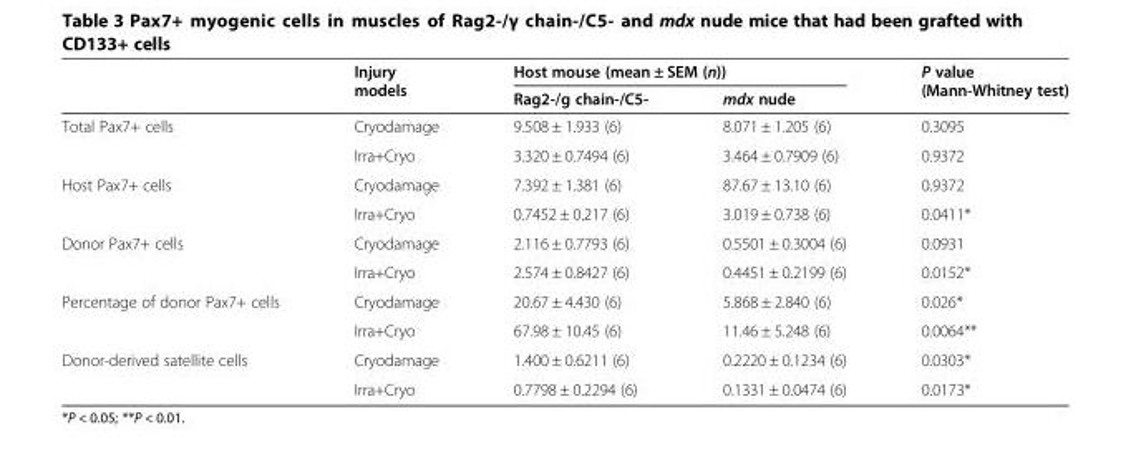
<table><thead><tr><td rowspan="2"></td><td rowspan="2">Injury models</td><td colspan="2">Host mouse (mean ± SEM (n))</td><td rowspan="2">P value (Mann-Whitney test)</td></tr><tr><td>Rag2-/g chain-/C5-</td><td>mdx nude</td></tr></thead><tbody><tr><td rowspan="2">Total Pax7+ cells</td><td>Cryodamage</td><td>9.508 ± 1.933 (6)</td><td>8.071 ± 1.205 (6)</td><td>0.3095</td></tr><tr><td>Irra+Cryo</td><td>3.320 ± 0.7494 (6)</td><td>3.464 ± 0.7909 (6)</td><td>0.9372</td></tr><tr><td rowspan="2">Host Pax7+ cells</td><td>Cryodamage</td><td>7.392 ± 1.381 (6)</td><td>87.67 ± 13.10 (6)</td><td>0.9372</td></tr><tr><td>Irra+Cryo</td><td>0.7452 ± 0.217 (6)</td><td>3.019 ± 0.738 (6)</td><td>0.0411*</td></tr><tr><td rowspan="2">Donor Pax7+ cells</td><td>Cryodamage</td><td>2.116 ± 0.7793 (6)</td><td>0.5501 ± 0.3004 (6)</td><td>0.0931</td></tr><tr><td>Irra+Cryo</td><td>2.574 ± 0.8427 (6)</td><td>0.4451 ± 0.2199 (6)</td><td>0.0152*</td></tr><tr><td rowspan="2">Percentage of donor Pax7+ cells</td><td>Cryodamage</td><td>20.67 ± 4.430 (6)</td><td>5.868 ± 2.840 (6)</td><td>0.026*</td></tr><tr><td>Irra+Cryo</td><td>67.98 ± 10.45 (6)</td><td>11.46 ± 5.248 (6)</td><td>0.0064**</td></tr><tr><td rowspan="2">Donor-derived satellite cells</td><td>Cryodamage</td><td>1.400 ± 0.6211 (6)</td><td>0.2220 ± 0.1234 (6)</td><td>0.0303*</td></tr><tr><td>Irra+Cryo</td><td>0.7798 ± 0.2294 (6)</td><td>0.1331 ± 0.0474 (6)</td><td>0.0173*</td></tr></tbody></table>